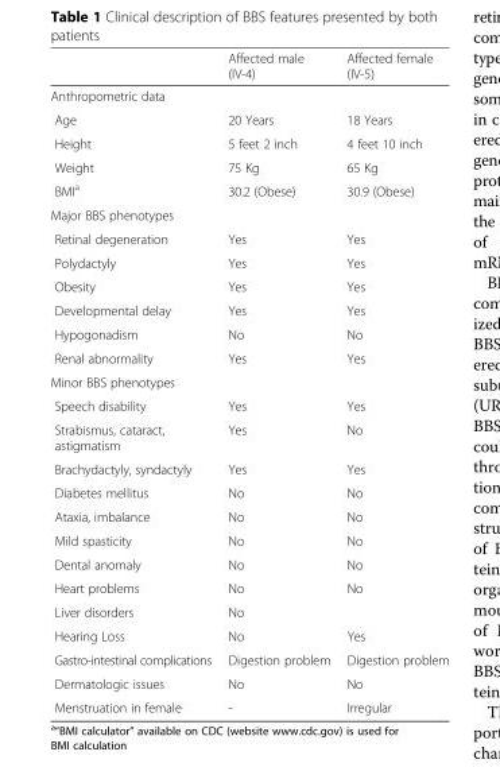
<table><thead><tr><td></td><td>Affected male (IV-4)</td><td>Affected female (IV-5)</td></tr></thead><tbody><tr><td colspan="3">Anthropometric data</td></tr><tr><td>Age</td><td>20 Years</td><td>18 Years</td></tr><tr><td>Height</td><td>5 feet 2 inch</td><td>4 feet 10 inch</td></tr><tr><td>Weight</td><td>75 Kg</td><td>65 Kg</td></tr><tr><td>BMI<sup>a</sup></td><td>30.2 (Obese)</td><td>30.9 (Obese)</td></tr><tr><td colspan="3">Major BBS phenotypes</td></tr><tr><td>Retinal degeneration</td><td>Yes</td><td>Yes</td></tr><tr><td>Polydactyly</td><td>Yes</td><td>Yes</td></tr><tr><td>Obesity</td><td>Yes</td><td>Yes</td></tr><tr><td>Developmental delay</td><td>Yes</td><td>Yes</td></tr><tr><td>Hypogonadism</td><td>No</td><td>No</td></tr><tr><td>Renal abnormality</td><td>Yes</td><td>Yes</td></tr><tr><td colspan="3">Minor BBS phenotypes</td></tr><tr><td>Speech disability</td><td>Yes</td><td>Yes</td></tr><tr><td>Strabismus, cataract, astigmatism</td><td>Yes</td><td>No</td></tr><tr><td>Brachydactyly, syndactyly</td><td>Yes</td><td>Yes</td></tr><tr><td>Diabetes mellitus</td><td>No</td><td>No</td></tr><tr><td>Ataxia, imbalance</td><td>No</td><td>No</td></tr><tr><td>Mild spasticity</td><td>No</td><td>No</td></tr><tr><td>Dental anomaly</td><td>No</td><td>No</td></tr><tr><td>Heart problems</td><td>No</td><td>No</td></tr><tr><td>Liver disorders</td><td>No</td><td></td></tr><tr><td>Hearing Loss</td><td>No</td><td>Yes</td></tr><tr><td>Gastro-intestinal complications</td><td>Digestion problem</td><td>Digestion problem</td></tr><tr><td>Dermatologic issues</td><td>No</td><td>No</td></tr><tr><td>Menstruation in female</td><td>-</td><td>Irregular</td></tr></tbody></table>